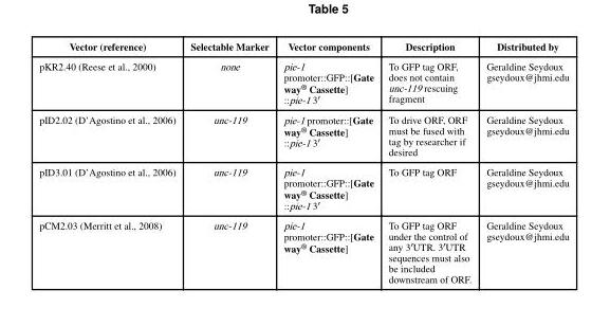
<table><thead><tr><td>Vector (reference)</td><td>Selectable Marker</td><td>Vector components</td><td>Description</td><td>Distributed by</td></tr></thead><tbody><tr><td>pKR2.40 (Reese et al., 2000)</td><td>none</td><td>pie-1 promoter::GFP::[Gate way<sup>®</sup> Cassette] ::pie-1 3′</td><td>To GFP tag ORF, does not contain unc-119 rescuing fragment</td><td>Geraldine Seydoux gseydoux@jhmi.edu</td></tr><tr><td>pID2.02 (D’Agostino et al., 2006)</td><td>unc-119</td><td>pie-1 promoter::[Gate way<sup>®</sup> Cassette] ::pie-1 3′</td><td>To drive ORF, ORF must be fused with tag by researcher if desired</td><td>Geraldine Seydoux gseydoux@jhmi.edu</td></tr><tr><td>pID3.01 (D’Agostino et al., 2006)</td><td>unc-119</td><td>pie-1 promoter::GFP::[Gate way<sup>®</sup> Cassette] ::pie-1 3′</td><td>To GFP tag ORF</td><td>Geraldine Seydoux gseydoux@jhmi.edu</td></tr><tr><td>pCM2.03 (Merritt et al., 2008)</td><td>unc-119</td><td>pie-1 promoter::GFP::[Gate way<sup>®</sup> Cassette]</td><td>To GFP tag ORF under the control of any 3′UTR. 3′UTR sequences must also be included downstream of ORF.</td><td>Geraldine Seydoux gseydoux@jhmi.edu</td></tr></tbody></table>